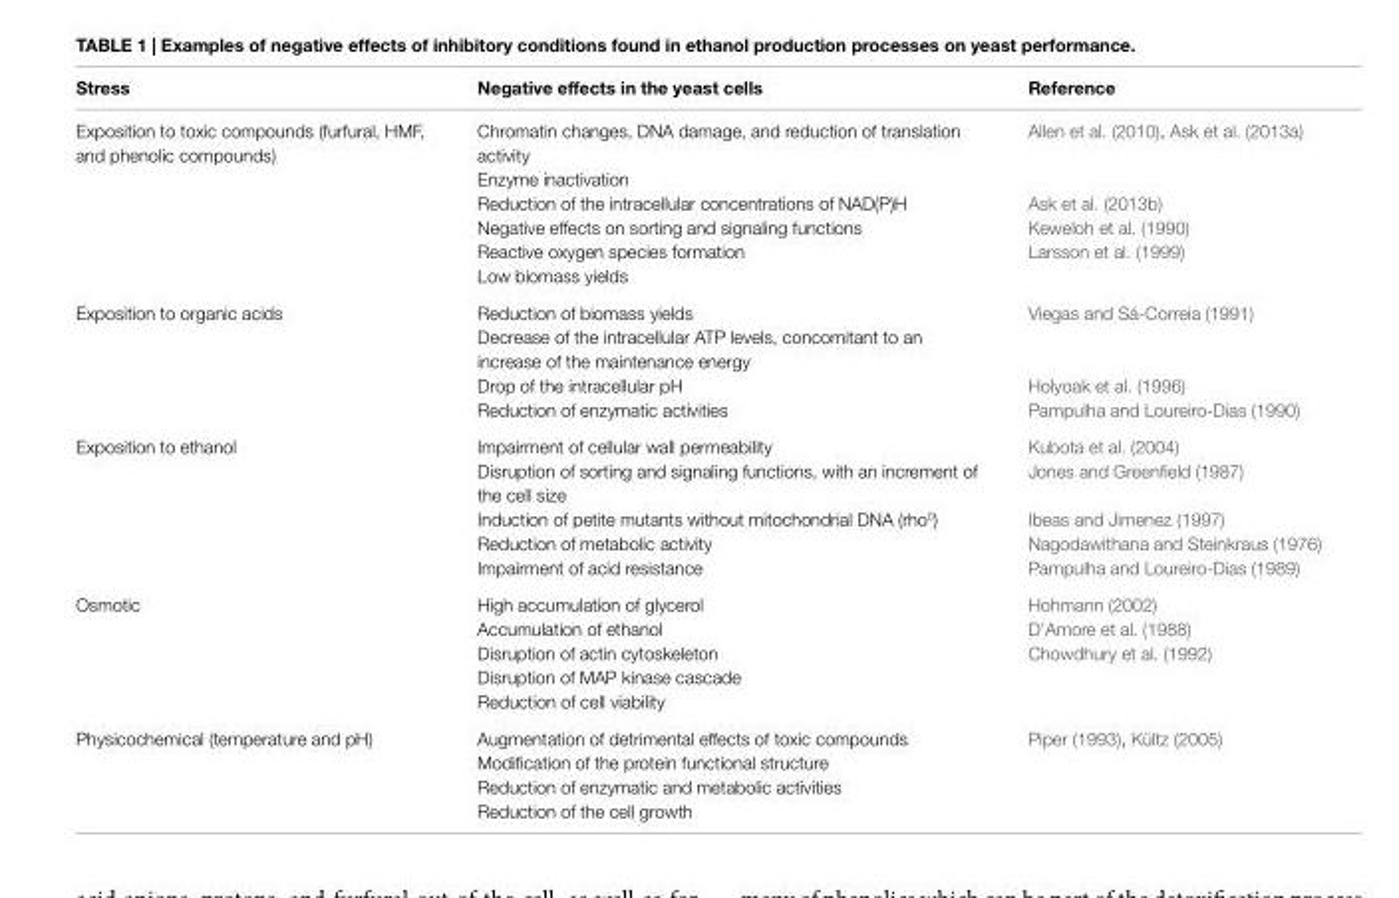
<table><thead><tr><td>Stress</td><td>Negative effects in the yeast cells</td><td>Reference</td></tr></thead><tbody><tr><td rowspan="6">Exposition to toxic compounds (furfural, HMF, and phenolic compounds)</td><td>Chromatin changes, DNA damage, and reduction of translation activity</td><td>Allen et al. (2010), Ask et al. (2013a)</td></tr><tr><td>Enzyme inactivation</td><td></td></tr><tr><td>Reduction of the intracellular concentrations of NAD(P)H</td><td>Ask et al. (2013b)</td></tr><tr><td>Negative effects on sorting and signaling functions</td><td>Keweloh et al. (1990)</td></tr><tr><td>Reactive oxygen species formation</td><td>Larsson et al. (1999)</td></tr><tr><td>Low biomass yields</td><td></td></tr><tr><td rowspan="4">Exposition to organic acids</td><td>Reduction of biomass yields</td><td>Viegas and Sá-Correia (1991)</td></tr><tr><td>Decrease of the intracellular ATP levels, concomitant to an increase of the maintenance energy</td><td></td></tr><tr><td>Drop of the intracellular pH</td><td>Holyoak et al. (1996)</td></tr><tr><td>Reduction of enzymatic activities</td><td>Pampulha and Loureiro-Dias (1990)</td></tr><tr><td rowspan="5">Exposition to ethanol</td><td>Impairment of cellular wall permeability</td><td>Kubota et al. (2004)</td></tr><tr><td>Disruption of sorting and signaling functions, with an increment of the cell size</td><td>Jones and Greenfield (1987)</td></tr><tr><td>Induction of petite mutants without mitochondrial DNA (rho<sup>0</sup>)</td><td>Ibeas and Jimenez (1997)</td></tr><tr><td>Reduction of metabolic activity</td><td>Nagodawithana and Steinkraus (1976)</td></tr><tr><td>Impairment of acid resistance</td><td>Pampulha and Loureiro-Dias (1989)</td></tr><tr><td rowspan="5">Osmotic</td><td>High accumulation of glycerol</td><td>Hohmann (2002)</td></tr><tr><td>Accumulation of ethanol</td><td>D’Amore et al. (1988)</td></tr><tr><td>Disruption of actin cytoskeleton</td><td>Chowdhury et al. (1992)</td></tr><tr><td>Disruption of MAP kinase cascade</td><td></td></tr><tr><td>Reduction of cell viability</td><td></td></tr><tr><td rowspan="4">Physicochemical (temperature and pH)</td><td>Augmentation of detrimental effects of toxic compounds</td><td>Piper (1993), Kültz (2005)</td></tr><tr><td>Modification of the protein functional structure</td><td></td></tr><tr><td>Reduction of enzymatic and metabolic activities</td><td></td></tr><tr><td>Reduction of the cell growth</td><td></td></tr></tbody></table>